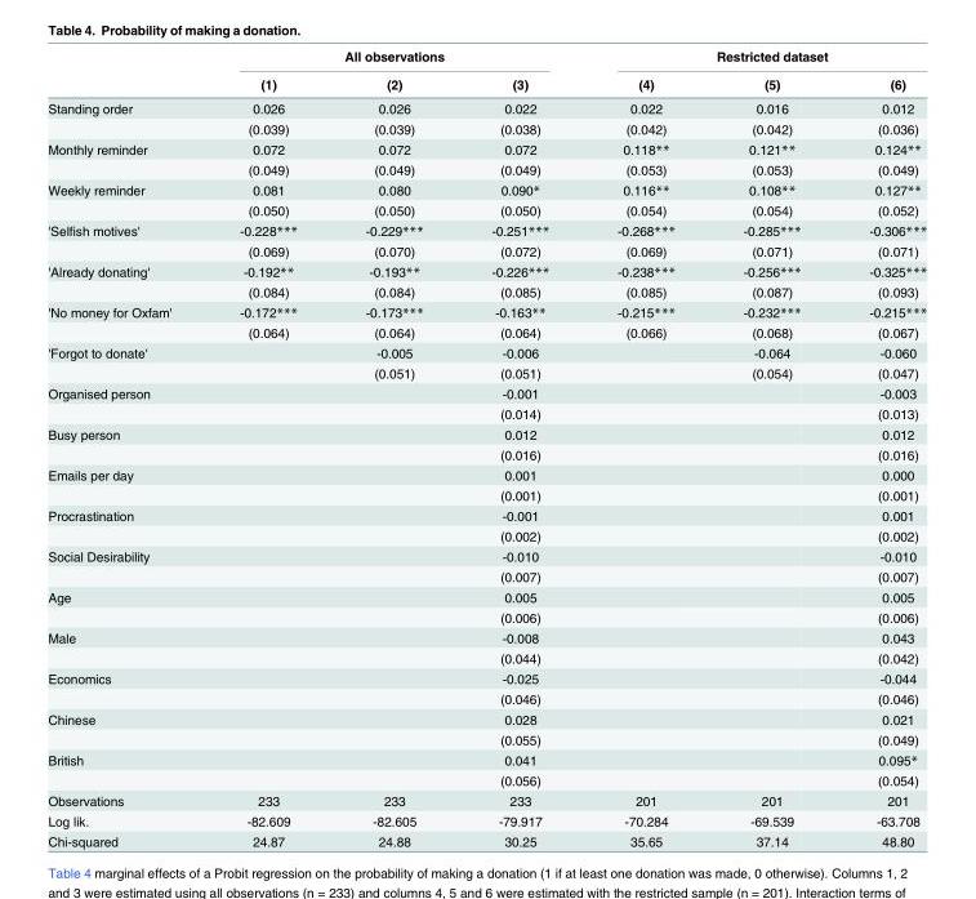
<table><thead><tr><td rowspan="2"></td><td colspan="3">All observations</td><td colspan="3">Restricted dataset</td></tr><tr><td>(1)</td><td>(2)</td><td>(3)</td><td>(4)</td><td>(5)</td><td>(6)</td></tr></thead><tbody><tr><td rowspan="2">Standing order</td><td>0.026</td><td>0.026</td><td>0.022</td><td>0.022</td><td>0.016</td><td>0.012</td></tr><tr><td>(0.039)</td><td>(0.039)</td><td>(0.038)</td><td>(0.042)</td><td>(0.042)</td><td>(0.036)</td></tr><tr><td rowspan="2">Monthly reminder</td><td>0.072</td><td>0.072</td><td>0.072</td><td>0.118**</td><td>0.121**</td><td>0.124**</td></tr><tr><td>(0.049)</td><td>(0.049)</td><td>(0.049)</td><td>(0.053)</td><td>(0.053)</td><td>(0.049)</td></tr><tr><td rowspan="2">Weekly reminder</td><td>0.081</td><td>0.080</td><td>0.090*</td><td>0.116**</td><td>0.108**</td><td>0.127**</td></tr><tr><td>(0.050)</td><td>(0.050)</td><td>(0.050)</td><td>(0.054)</td><td>(0.054)</td><td>(0.052)</td></tr><tr><td rowspan="2">&#x27;Selfish motives&#x27;</td><td>-0.228***</td><td>-0.229***</td><td>-0.251***</td><td>-0.268***</td><td>-0.285***</td><td>-0.306***</td></tr><tr><td>(0.069)</td><td>(0.070)</td><td>(0.072)</td><td>(0.069)</td><td>(0.071)</td><td>(0.071)</td></tr><tr><td rowspan="2">&#x27;Already donating&#x27;</td><td>-0.192**</td><td>-0.193**</td><td>-0.226***</td><td>-0.238***</td><td>-0.256***</td><td>-0.325***</td></tr><tr><td>(0.084)</td><td>(0.084)</td><td>(0.085)</td><td>(0.085)</td><td>(0.087)</td><td>(0.093)</td></tr><tr><td rowspan="2">&#x27;No money for Oxfam&#x27;</td><td>-0.172***</td><td>-0.173***</td><td>-0.163**</td><td>-0.215***</td><td>-0.232***</td><td>-0.215***</td></tr><tr><td>(0.064)</td><td>(0.064)</td><td>(0.064)</td><td>(0.066)</td><td>(0.068)</td><td>(0.067)</td></tr><tr><td rowspan="2">&#x27;Forgot to donate&#x27;</td><td></td><td>-0.005</td><td>-0.006</td><td></td><td>-0.064</td><td>-0.060</td></tr><tr><td></td><td>(0.051)</td><td>(0.051)</td><td></td><td>(0.054)</td><td>(0.047)</td></tr><tr><td rowspan="2">Organised person</td><td></td><td></td><td>-0.001</td><td></td><td></td><td>-0.003</td></tr><tr><td></td><td></td><td>(0.014)</td><td></td><td></td><td>(0.013)</td></tr><tr><td rowspan="2">Busy person</td><td></td><td></td><td>0.012</td><td></td><td></td><td>0.012</td></tr><tr><td></td><td></td><td>(0.016)</td><td></td><td></td><td>(0.016)</td></tr><tr><td rowspan="2">Emails per day</td><td></td><td></td><td>0.001</td><td></td><td></td><td>0.000</td></tr><tr><td></td><td></td><td>(0.001)</td><td></td><td></td><td>(0.001)</td></tr><tr><td rowspan="2">Procrastination</td><td></td><td></td><td>-0.001</td><td></td><td></td><td>0.001</td></tr><tr><td></td><td></td><td>(0.002)</td><td></td><td></td><td>(0.002)</td></tr><tr><td rowspan="2">Social Desirability</td><td></td><td></td><td>-0.010</td><td></td><td></td><td>-0.010</td></tr><tr><td></td><td></td><td>(0.007)</td><td></td><td></td><td>(0.007)</td></tr><tr><td rowspan="2">Age</td><td></td><td></td><td>0.005</td><td></td><td></td><td>0.005</td></tr><tr><td></td><td></td><td>(0.006)</td><td></td><td></td><td>(0.006)</td></tr><tr><td rowspan="2">Male</td><td></td><td></td><td>-0.008</td><td></td><td></td><td>0.043</td></tr><tr><td></td><td></td><td>(0.044)</td><td></td><td></td><td>(0.042)</td></tr><tr><td rowspan="2">Economics</td><td></td><td></td><td>-0.025</td><td></td><td></td><td>-0.044</td></tr><tr><td></td><td></td><td>(0.046)</td><td></td><td></td><td>(0.046)</td></tr><tr><td rowspan="2">Chinese</td><td></td><td></td><td>0.028</td><td></td><td></td><td>0.021</td></tr><tr><td></td><td></td><td>(0.055)</td><td></td><td></td><td>(0.049)</td></tr><tr><td rowspan="2">British</td><td></td><td></td><td>0.041</td><td></td><td></td><td>0.095*</td></tr><tr><td></td><td></td><td>(0.056)</td><td></td><td></td><td>(0.054)</td></tr><tr><td>Observations</td><td>233</td><td>233</td><td>233</td><td>201</td><td>201</td><td>201</td></tr><tr><td>Log lik.</td><td>-82.609</td><td>-82.605</td><td>-79.917</td><td>-70.284</td><td>-69.539</td><td>-63.708</td></tr><tr><td>Chi-squared</td><td>24.87</td><td>24.88</td><td>30.25</td><td>35.65</td><td>37.14</td><td>48.80</td></tr></tbody></table>